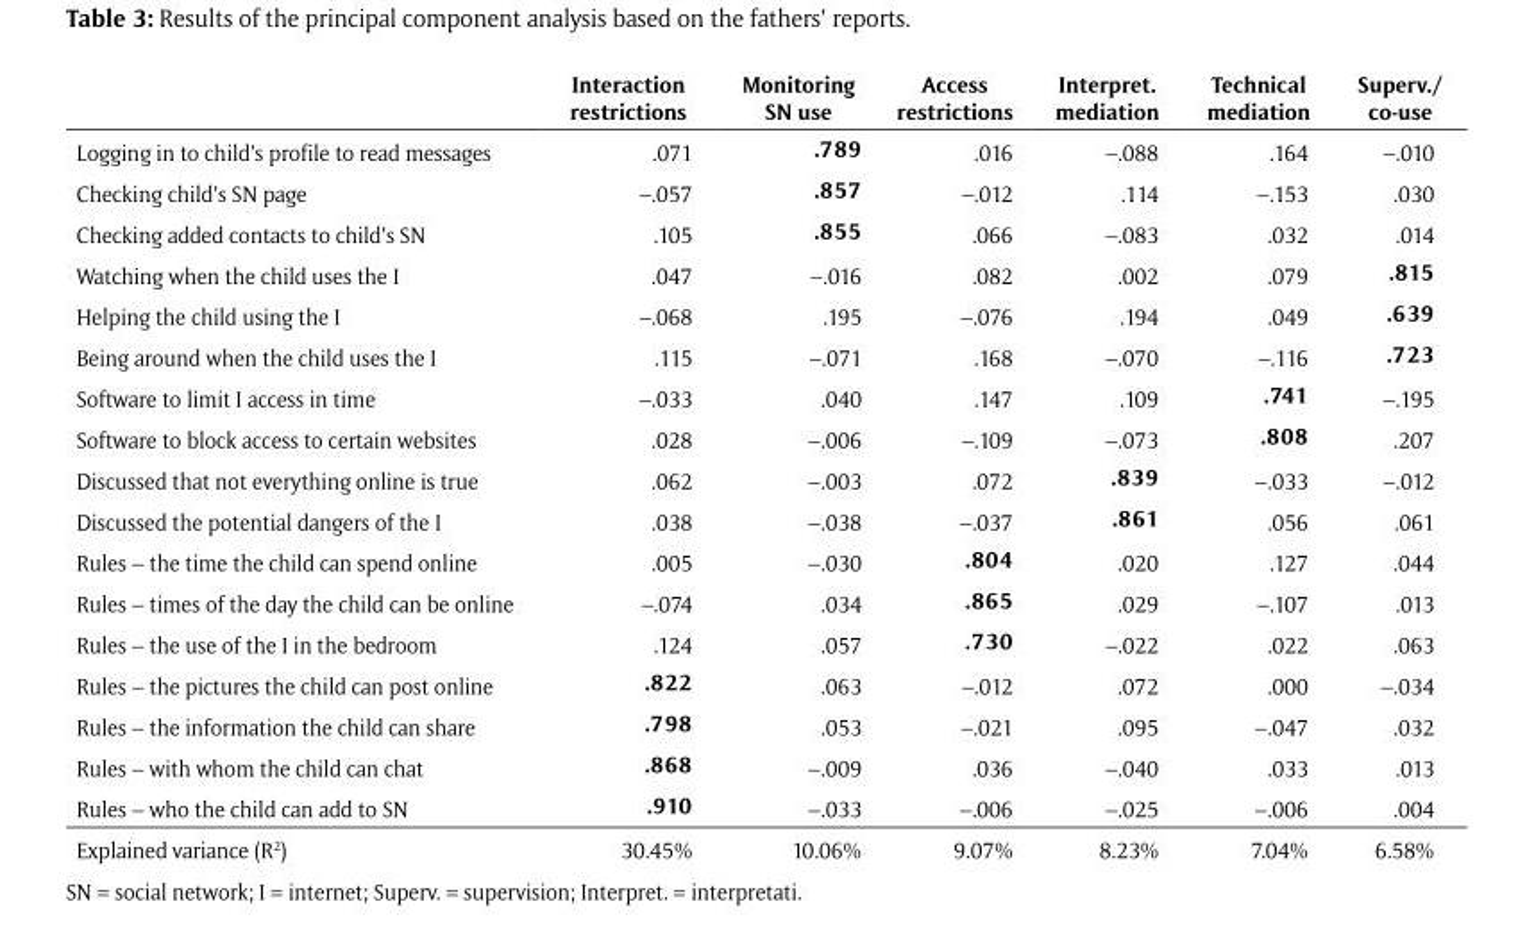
<table><thead><tr><td></td><td>Interaction restrictions</td><td>Monitoring SN use</td><td>Access restrictions</td><td>Interpret. mediation</td><td>Technical mediation</td><td>Superv./ co-use</td></tr></thead><tbody><tr><td>Logging in to child’s profile to read messages</td><td>.071</td><td>.789</td><td>.016</td><td>–.088</td><td>.164</td><td>–.010</td></tr><tr><td>Checking child’s SN page</td><td>–.057</td><td>.857</td><td>–.012</td><td>.114</td><td>–.153</td><td>.030</td></tr><tr><td>Checking added contacts to child’s SN</td><td>.105</td><td>.855</td><td>.066</td><td>–.083</td><td>.032</td><td>.014</td></tr><tr><td>Watching when the child uses the I</td><td>.047</td><td>–.016</td><td>.082</td><td>.002</td><td>.079</td><td>.815</td></tr><tr><td>Helping the child using the I</td><td>–.068</td><td>.195</td><td>–.076</td><td>.194</td><td>.049</td><td>.639</td></tr><tr><td>Being around when the child uses the I</td><td>.115</td><td>–.071</td><td>.168</td><td>–.070</td><td>–.116</td><td>.723</td></tr><tr><td>Software to limit I access in time</td><td>–.033</td><td>.040</td><td>.147</td><td>.109</td><td>.741</td><td>–.195</td></tr><tr><td>Software to block access to certain websites</td><td>.028</td><td>–.006</td><td>–.109</td><td>–.073</td><td>.808</td><td>.207</td></tr><tr><td>Discussed that not everything online is true</td><td>.062</td><td>–.003</td><td>.072</td><td>.839</td><td>–.033</td><td>–.012</td></tr><tr><td>Discussed the potential dangers of the I</td><td>.038</td><td>–.038</td><td>–.037</td><td>.861</td><td>.056</td><td>.061</td></tr><tr><td>Rules – the time the child can spend online</td><td>.005</td><td>–.030</td><td>.804</td><td>.020</td><td>.127</td><td>.044</td></tr><tr><td>Rules – times of the day the child can be online</td><td>–.074</td><td>.034</td><td>.865</td><td>.029</td><td>–.107</td><td>.013</td></tr><tr><td>Rules – the use of the I in the bedroom</td><td>.124</td><td>.057</td><td>.730</td><td>–.022</td><td>.022</td><td>.063</td></tr><tr><td>Rules – the pictures the child can post online</td><td>.822</td><td>.063</td><td>–.012</td><td>.072</td><td>.000</td><td>–.034</td></tr><tr><td>Rules – the information the child can share</td><td>.798</td><td>.053</td><td>–.021</td><td>.095</td><td>–.047</td><td>.032</td></tr><tr><td>Rules – with whom the child can chat</td><td>.868</td><td>–.009</td><td>.036</td><td>–.040</td><td>.033</td><td>.013</td></tr><tr><td>Rules – who the child can add to SN</td><td>.910</td><td>–.033</td><td>–.006</td><td>–.025</td><td>–.006</td><td>.004</td></tr><tr><td>Explained variance (R<sup>2</sup>)</td><td>30.45%</td><td>10.06%</td><td>9.07%</td><td>8.23%</td><td>7.04%</td><td>6.58%</td></tr></tbody></table>